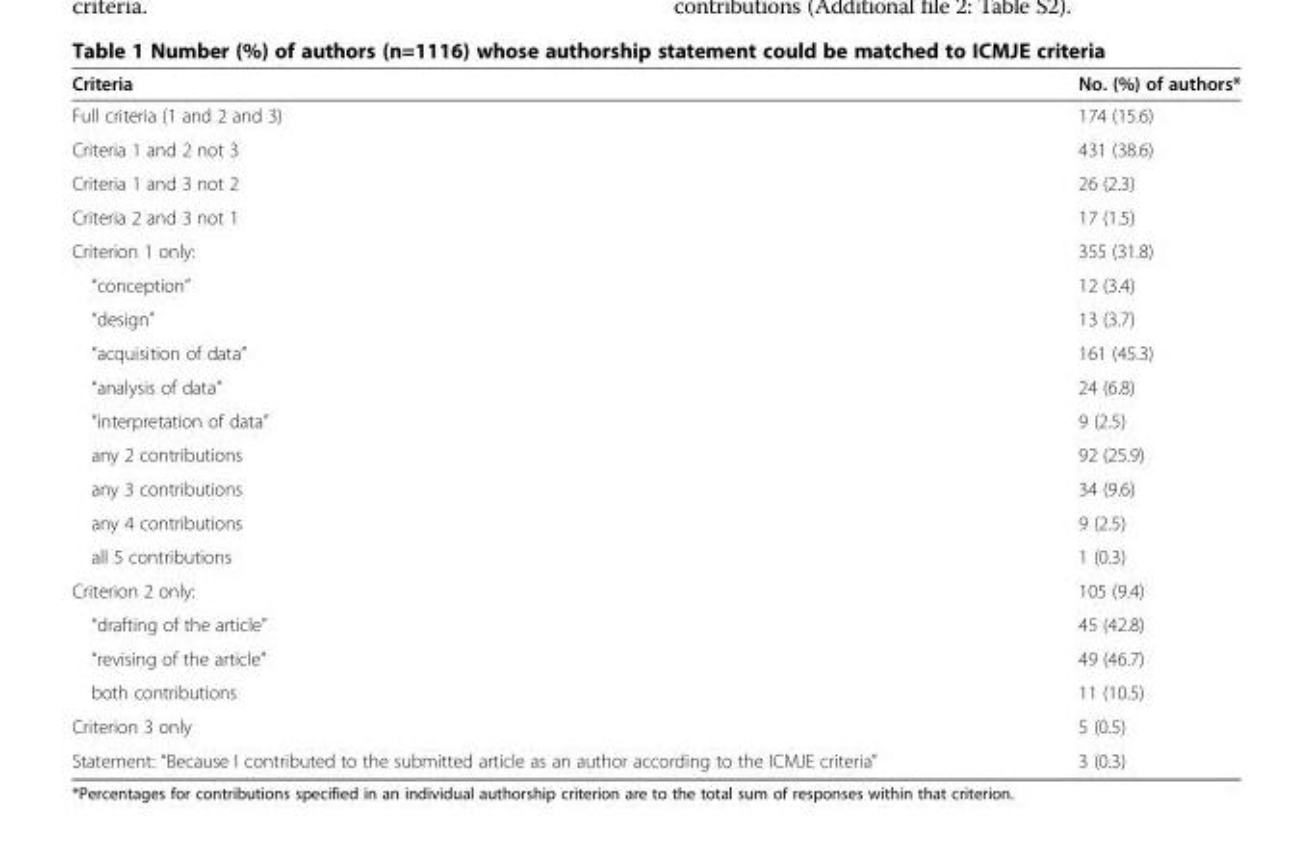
<table><thead><tr><td>Criteria</td><td>No. (%) of authors*</td></tr></thead><tbody><tr><td>Full criteria (1 and 2 and 3)</td><td>174 (15.6)</td></tr><tr><td>Criteria 1 and 2 not 3</td><td>431 (38.6)</td></tr><tr><td>Criteria 1 and 3 not 2</td><td>26 (2.3)</td></tr><tr><td>Criteria 2 and 3 not 1</td><td>17 (1.5)</td></tr><tr><td>Criterion 1 only:</td><td>355 (31.8)</td></tr><tr><td>“conception”</td><td>12 (3.4)</td></tr><tr><td>“design”</td><td>13 (3.7)</td></tr><tr><td>“acquisition of data”</td><td>161 (45.3)</td></tr><tr><td>“analysis of data”</td><td>24 (6.8)</td></tr><tr><td>“interpretation of data”</td><td>9 (2.5)</td></tr><tr><td>any 2 contributions</td><td>92 (25.9)</td></tr><tr><td>any 3 contributions</td><td>34 (9.6)</td></tr><tr><td>any 4 contributions</td><td>9 (2.5)</td></tr><tr><td>all 5 contributions</td><td>1 (0.3)</td></tr><tr><td>Criterion 2 only:</td><td>105 (9.4)</td></tr><tr><td>“drafting of the article”</td><td>45 (42.8)</td></tr><tr><td>“revising of the article”</td><td>49 (46.7)</td></tr><tr><td>both contributions</td><td>11 (10.5)</td></tr><tr><td>Criterion 3 only</td><td>5 (0.5)</td></tr><tr><td>Statement: “Because I contributed to the submitted article as an author according to the ICMJE criteria”</td><td>3 (0.3)</td></tr></tbody></table>